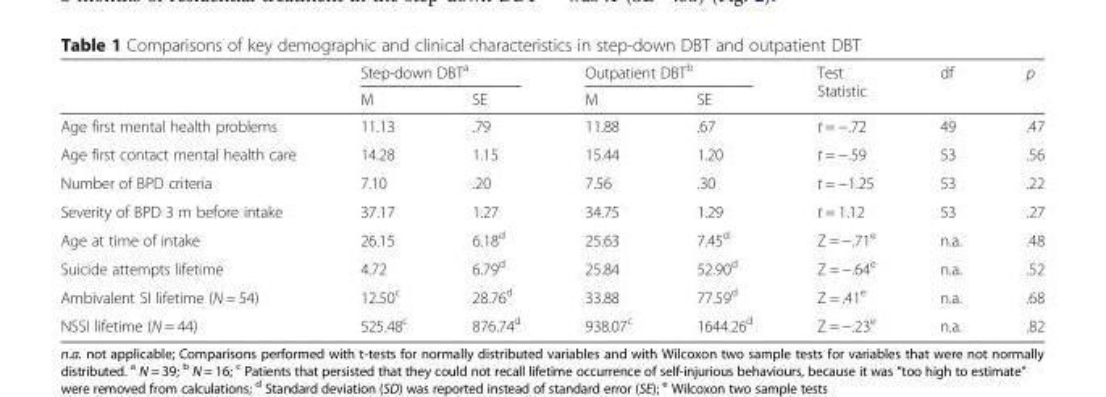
<table><thead><tr><td rowspan="2"></td><td colspan="2">Step-down DBT<sup>a</sup></td><td colspan="2">Outpatient DBT<sup>b</sup></td><td rowspan="2">Test Statistic</td><td rowspan="2">df</td><td rowspan="2">p</td></tr><tr><td>M</td><td>SE</td><td>M</td><td>SE</td></tr></thead><tbody><tr><td>Age first mental health problems</td><td>11.13</td><td>.79</td><td>11.88</td><td>.67</td><td>t = −.72</td><td>49</td><td>.47</td></tr><tr><td>Age first contact mental health care</td><td>14.28</td><td>1.15</td><td>15.44</td><td>1.20</td><td>t = −.59</td><td>53</td><td>.56</td></tr><tr><td>Number of BPD criteria</td><td>7.10</td><td>.20</td><td>7.56</td><td>.30</td><td>t = −1.25</td><td>53</td><td>.22</td></tr><tr><td>Severity of BPD 3 m before intake</td><td>37.17</td><td>1.27</td><td>34.75</td><td>1.29</td><td>t = 1.12</td><td>53</td><td>.27</td></tr><tr><td>Age at time of intake</td><td>26.15</td><td>6.18<sup>d</sup></td><td>25.63</td><td>7.45<sup>d</sup></td><td>Z = −.71<sup>e</sup></td><td>n.a.</td><td>.48</td></tr><tr><td>Suicide attempts lifetime</td><td>4.72</td><td>6.79<sup>d</sup></td><td>25.84</td><td>52.90<sup>d</sup></td><td>Z = −.64<sup>e</sup></td><td>n.a.</td><td>.52</td></tr><tr><td>Ambivalent SI lifetime (N = 54)</td><td>12.50<sup>c</sup></td><td>28.76<sup>d</sup></td><td>33.88</td><td>77.59<sup>d</sup></td><td>Z = .41<sup>e</sup></td><td>n.a.</td><td>.68</td></tr><tr><td>NSSI lifetime (N = 44)</td><td>525.48<sup>c</sup></td><td>876.74<sup>d</sup></td><td>938.07<sup>c</sup></td><td>1644.26<sup>d</sup></td><td>Z = −.23<sup>e</sup></td><td>n.a.</td><td>.82</td></tr></tbody></table>